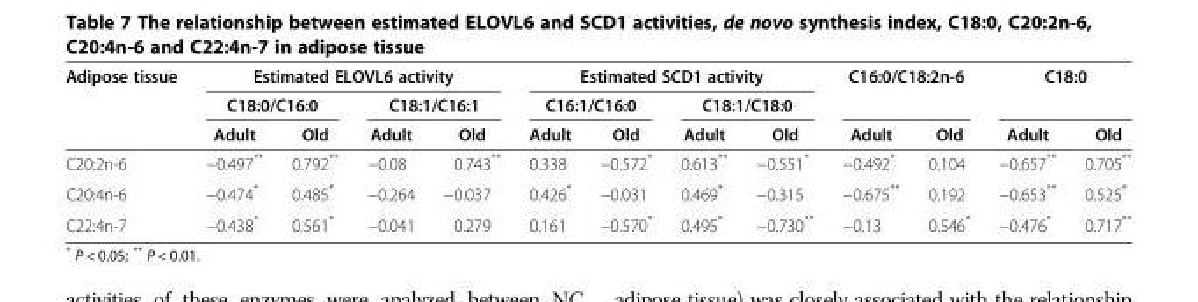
<table><thead><tr><td rowspan="3">Adipose tissue</td><td colspan="4">Estimated ELOVL6 activity</td><td colspan="4">Estimated SCD1 activity</td><td rowspan="2" colspan="2">C16:0/C18:2n-6</td><td rowspan="2" colspan="2">C18:0</td></tr><tr><td colspan="2">C18:0/C16:0</td><td colspan="2">C18:1/C16:1</td><td colspan="2">C16:1/C16:0</td><td colspan="2">C18:1/C18:0</td></tr><tr><td>Adult</td><td>Old</td><td>Adult</td><td>Old</td><td>Adult</td><td>Old</td><td>Adult</td><td>Old</td><td>Adult</td><td>Old</td><td>Adult</td><td>Old</td></tr></thead><tbody><tr><td>C20:2n-6</td><td>−0.497**</td><td>0.792**</td><td>−0.08</td><td>0.743**</td><td>0.338</td><td>−0.572*</td><td>0.613**</td><td>−0.551*</td><td>−0.492*</td><td>0.104</td><td>−0.657**</td><td>0.705**</td></tr><tr><td>C20:4n-6</td><td>−0.474*</td><td>0.485*</td><td>−0.264</td><td>−0.037</td><td>0.426*</td><td>−0.031</td><td>0.469*</td><td>−0.315</td><td>−0.675**</td><td>0.192</td><td>−0.653**</td><td>0.525*</td></tr><tr><td>C22:4n-7</td><td>−0.438*</td><td>0.561*</td><td>−0.041</td><td>0.279</td><td>0.161</td><td>−0.570*</td><td>0.495*</td><td>−0.730**</td><td>−0.13</td><td>0.546*</td><td>−0.476*</td><td>0.717**</td></tr></tbody></table>